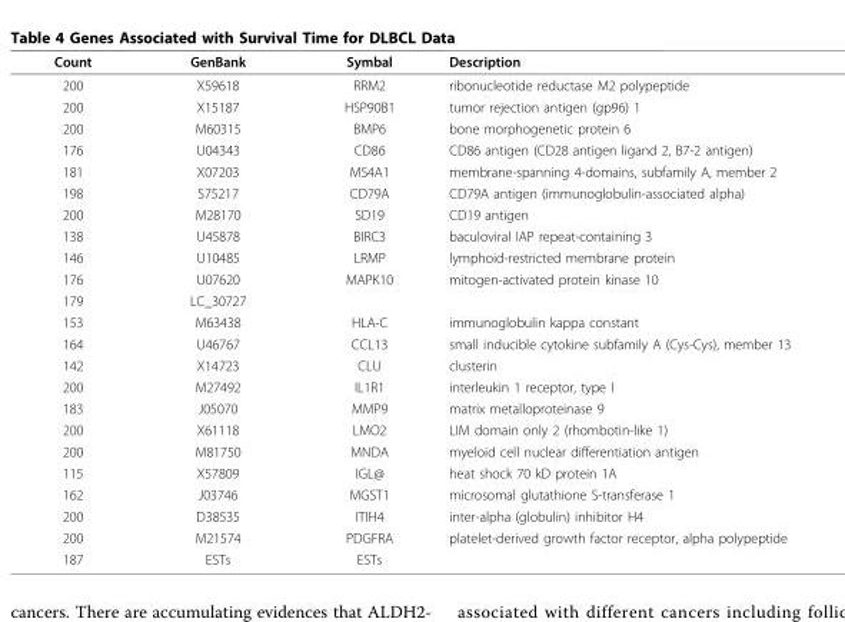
<table><thead><tr><td>Count</td><td>GenBank</td><td>Symbal</td><td>Description</td></tr></thead><tbody><tr><td>200</td><td>X59618</td><td>RRM2</td><td>ribonucleotide reductase M2 polypeptide</td></tr><tr><td>200</td><td>X15187</td><td>HSP90B1</td><td>tumor rejection antigen (gp96) 1</td></tr><tr><td>200</td><td>M60315</td><td>BMP6</td><td>bone morphogenetic protein 6</td></tr><tr><td>176</td><td>U04343</td><td>CD86</td><td>CD86 antigen (CD28 antigen ligand 2, B7-2 antigen)</td></tr><tr><td>181</td><td>X07203</td><td>MS4A1</td><td>membrane-spanning 4-domains, subfamily A, member 2</td></tr><tr><td>198</td><td>S75217</td><td>CD79A</td><td>CD79A antigen (immunoglobulin-associated alpha)</td></tr><tr><td>200</td><td>M28170</td><td>SD19</td><td>CD19 antigen</td></tr><tr><td>138</td><td>U45878</td><td>BIRC3</td><td>baculoviral IAP repeat-containing 3</td></tr><tr><td>146</td><td>U10485</td><td>LRMP</td><td>lymphoid-restricted membrane protein</td></tr><tr><td>176</td><td>U07620</td><td>MAPK10</td><td>mitogen-activated protein kinase 10</td></tr><tr><td>179</td><td>LC_30727</td><td></td><td></td></tr><tr><td>153</td><td>M63438</td><td>HLA-C</td><td>immunoglobulin kappa constant</td></tr><tr><td>164</td><td>U46767</td><td>CCL13</td><td>small inducible cytokine subfamily A (Cys-Cys), member 13</td></tr><tr><td>142</td><td>X14723</td><td>CLU</td><td>clusterin</td></tr><tr><td>200</td><td>M27492</td><td>IL1R1</td><td>interleukin 1 receptor, type I</td></tr><tr><td>183</td><td>J05070</td><td>MMP9</td><td>matrix metalloproteinase 9</td></tr><tr><td>200</td><td>X61118</td><td>LMO2</td><td>LIM domain only 2 (rhombotin-like 1)</td></tr><tr><td>200</td><td>M81750</td><td>MNDA</td><td>myeloid cell nuclear differentiation antigen</td></tr><tr><td>115</td><td>X57809</td><td>IGL@</td><td>heat shock 70 kD protein 1A</td></tr><tr><td>162</td><td>J03746</td><td>MGST1</td><td>microsomal glutathione S-transferase 1</td></tr><tr><td>200</td><td>D38535</td><td>ITIH4</td><td>inter-alpha (globulin) inhibitor H4</td></tr><tr><td>200</td><td>M21574</td><td>PDGFRA</td><td>platelet-derived growth factor receptor, alpha polypeptide</td></tr><tr><td>187</td><td>ESTs</td><td>ESTs</td><td></td></tr></tbody></table>